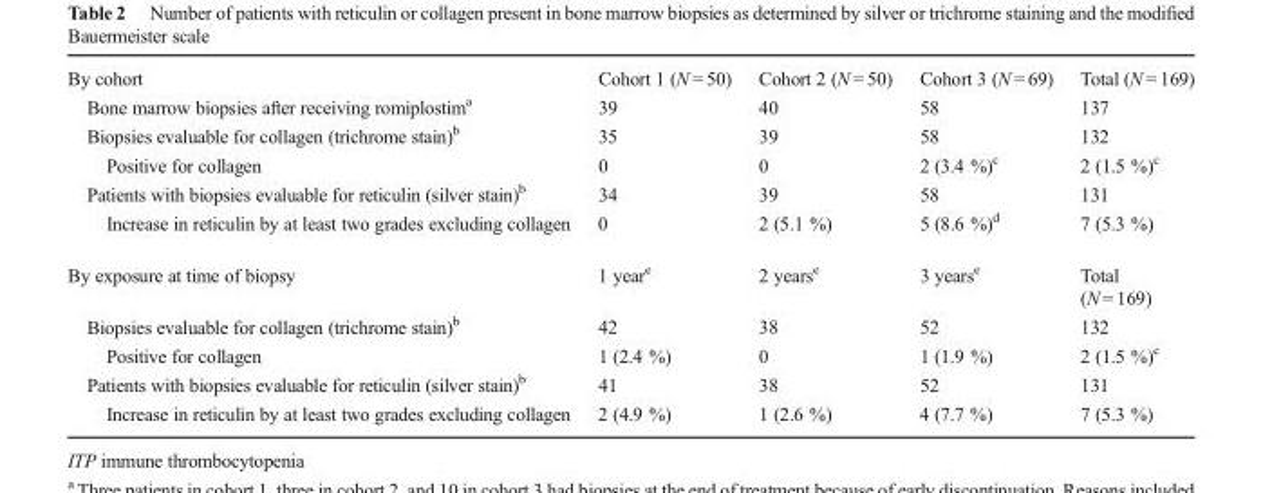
<table><tbody><tr><td>By cohort</td><td>Cohort 1 (N = 50)</td><td>Cohort 2 (N = 50)</td><td>Cohort 3 (N = 69)</td><td>Total (N = 169)</td></tr><tr><td>Bone marrow biopsies after receiving romiplostim<sup>a</sup></td><td>39</td><td>40</td><td>58</td><td>137</td></tr><tr><td>Biopsies evaluable for collagen (trichrome stain)<sup>b</sup></td><td>35</td><td>39</td><td>58</td><td>132</td></tr><tr><td>Positive for collagen</td><td>0</td><td>0</td><td>2 (3.4 %)<sup>c</sup></td><td>2 (1.5 %)<sup>c</sup></td></tr><tr><td>Patients with biopsies evaluable for reticulin (silver stain)<sup>b</sup></td><td>34</td><td>39</td><td>58</td><td>131</td></tr><tr><td>Increase in reticulin by at least two grades excluding collagen</td><td>0</td><td>2 (5.1 %)</td><td>5 (8.6 %)<sup>d</sup></td><td>7 (5.3 %)</td></tr><tr><td>By exposure at time of biopsy</td><td>1 year<sup>e</sup></td><td>2 years<sup>e</sup></td><td>3 years<sup>e</sup></td><td>Total (N = 169)</td></tr><tr><td>Biopsies evaluable for collagen (trichrome stain)<sup>b</sup></td><td>42</td><td>38</td><td>52</td><td>132</td></tr><tr><td>Positive for collagen</td><td>1 (2.4 %)</td><td>0</td><td>1 (1.9 %)</td><td>2 (1.5 %)<sup>c</sup></td></tr><tr><td>Patients with biopsies evaluable for reticulin (silver stain)<sup>b</sup></td><td>41</td><td>38</td><td>52</td><td>131</td></tr><tr><td>Increase in reticulin by at least two grades excluding collagen</td><td>2 (4.9 %)</td><td>1 (2.6 %)</td><td>4 (7.7 %)</td><td>7 (5.3 %)</td></tr></tbody></table>